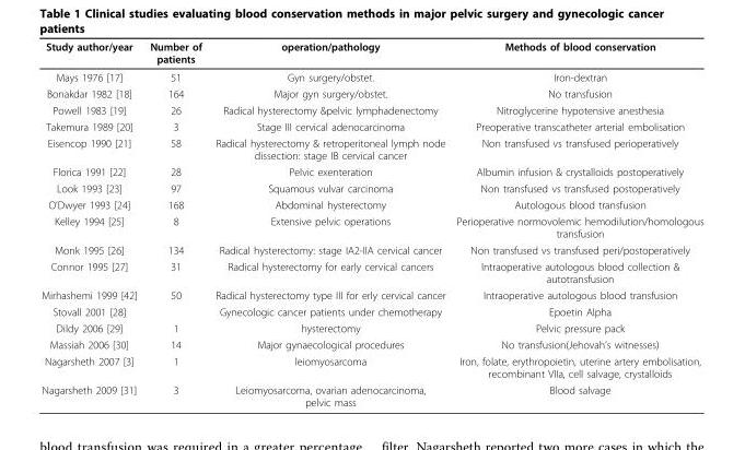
<table><thead><tr><td>Study author/year</td><td>Number of patients</td><td>operation/pathology</td><td>Methods of blood conservation</td></tr></thead><tbody><tr><td>Mays 1976 [17]</td><td>51</td><td>Gyn surgery/obstet.</td><td>Iron-dextran</td></tr><tr><td>Bonakdar 1982 [18]</td><td>164</td><td>Major gyn surgery/obstet.</td><td>No transfusion</td></tr><tr><td>Powell 1983 [19]</td><td>26</td><td>Radical hysterectomy &amp;pelvic lymphadenectomy</td><td>Nitroglycerine hypotensive anesthesia</td></tr><tr><td>Takemura 1989 [20]</td><td>3</td><td>Stage III cervical adenocarcinoma</td><td>Preoperative transcatheter arterial embolisation</td></tr><tr><td>Eisencop 1990 [21]</td><td>58</td><td>Radical hysterectomy &amp; retroperitoneal lymph node dissection: stage IB cervical cancer</td><td>Non transfused vs transfused perioperatively</td></tr><tr><td>Florica 1991 [22]</td><td>28</td><td>Pelvic exenteration</td><td>Albumin infusion &amp; crystalloids postoperatively</td></tr><tr><td>Look 1993 [23]</td><td>97</td><td>Squamous vulvar carcinoma</td><td>Non transfused vs transfused postoperatively</td></tr><tr><td>O’Dwyer 1993 [24]</td><td>168</td><td>Abdominal hysterectomy</td><td>Autologous blood transfusion</td></tr><tr><td>Kelley 1994 [25]</td><td>8</td><td>Extensive pelvic operations</td><td>Perioperative normovolemic hemodilution/homologous transfusion</td></tr><tr><td>Monk 1995 [26]</td><td>134</td><td>Radical hysterectomy: stage IA2-IIA cervical cancer</td><td>Non transfused vs transfused peri/postoperatively</td></tr><tr><td>Connor 1995 [27]</td><td>31</td><td>Radical hysterectomy for early cervical cancers</td><td>Intraoperative autologous blood collection &amp; autotransfusion</td></tr><tr><td>Mirhashemi 1999 [42]</td><td>50</td><td>Radical hysterectomy type III for erly cervical cancer</td><td>Intraoperative autologous blood transfusion</td></tr><tr><td>Stovall 2001 [28]</td><td></td><td>Gynecologic cancer patients under chemotherapy</td><td>Epoetin Alpha</td></tr><tr><td>Dildy 2006 [29]</td><td>1</td><td>hysterectomy</td><td>Pelvic pressure pack</td></tr><tr><td>Massiah 2006 [30]</td><td>14</td><td>Major gynaecological procedures</td><td>No transfusion(Jehovah’s witnesses)</td></tr><tr><td>Nagarsheth 2007 [3]</td><td>1</td><td>leiomyosarcoma</td><td>Iron, folate, erythropoietin, uterine artery embolisation, recombinant VIIa, cell salvage, crystalloids</td></tr><tr><td>Nagarsheth 2009 [31]</td><td>3</td><td>Leiomyosarcoma, ovarian adenocarcinoma, pelvic mass</td><td>Blood salvage</td></tr></tbody></table>